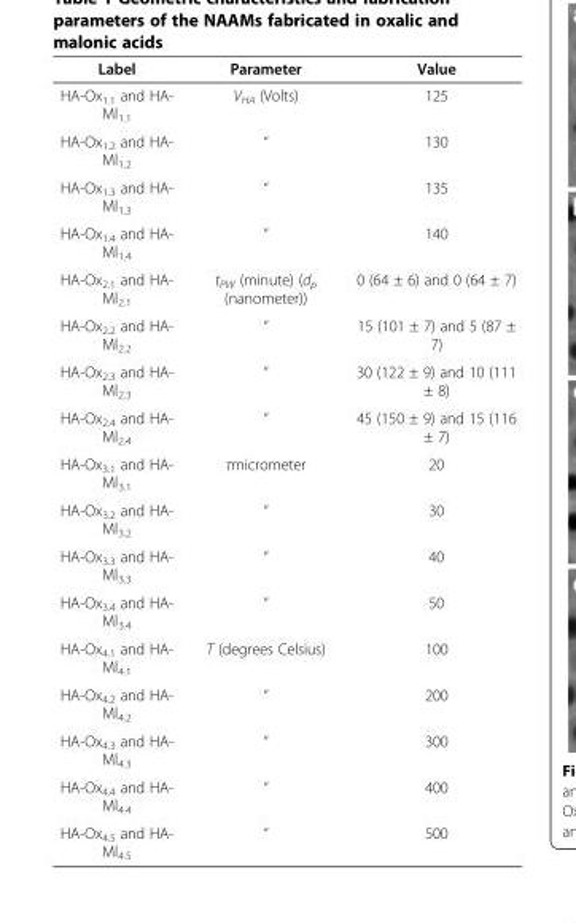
<table><thead><tr><td>Label</td><td>Parameter</td><td>Value</td></tr></thead><tbody><tr><td>HA-Ox<sub>1.1</sub> and HA- Ml<sub>1.1</sub></td><td>V<sub>HA</sub> (Volts)</td><td>125</td></tr><tr><td>HA-Ox<sub>1.2</sub> and HA- Ml<sub>1.2</sub></td><td>“</td><td>130</td></tr><tr><td>HA-Ox<sub>1.3</sub> and HA- Ml<sub>1.3</sub></td><td>“</td><td>135</td></tr><tr><td>HA-Ox<sub>1.4</sub> and HA- Ml<sub>1.4</sub></td><td>“</td><td>140</td></tr><tr><td>HA-Ox<sub>2.1</sub> and HA- Ml<sub>2.1</sub></td><td>t<sub>PW</sub> (minute) (d<sub>p</sub> (nanometer))</td><td>0 (64 ± 6) and 0 (64 ± 7)</td></tr><tr><td>HA-Ox<sub>2.2</sub> and HA- Ml<sub>2.2</sub></td><td>“</td><td>15 (101 ± 7) and 5 (87 ± 7)</td></tr><tr><td>HA-Ox<sub>2.3</sub> and HA- Ml<sub>2.3</sub></td><td>“</td><td>30 (122 ± 9) and 10 (111 ± 8)</td></tr><tr><td>HA-Ox<sub>2.4</sub> and HA- Ml<sub>2.4</sub></td><td>“</td><td>45 (150 ± 9) and 15 (116 ± 7)</td></tr><tr><td>HA-Ox<sub>3.1</sub> and HA- Ml<sub>3.1</sub></td><td>τmicrometer</td><td>20</td></tr><tr><td>HA-Ox<sub>3.2</sub> and HA- Ml<sub>3.2</sub></td><td>“</td><td>30</td></tr><tr><td>HA-Ox<sub>3.3</sub> and HA- Ml<sub>3.3</sub></td><td>“</td><td>40</td></tr><tr><td>HA-Ox<sub>3.4</sub> and HA- Ml<sub>3.4</sub></td><td>“</td><td>50</td></tr><tr><td>HA-Ox<sub>4.1</sub> and HA- Ml<sub>4.1</sub></td><td>T (degrees Celsius)</td><td>100</td></tr><tr><td>HA-Ox<sub>4.2</sub> and HA- Ml<sub>4.2</sub></td><td>“</td><td>200</td></tr><tr><td>HA-Ox<sub>4.3</sub> and HA- Ml<sub>4.3</sub></td><td>“</td><td>300</td></tr><tr><td>HA-Ox<sub>4.4</sub> and HA- Ml<sub>4.4</sub></td><td>“</td><td>400</td></tr><tr><td>HA-Ox<sub>4.5</sub> and HA- Ml<sub>4.5</sub></td><td>“</td><td>500</td></tr></tbody></table>